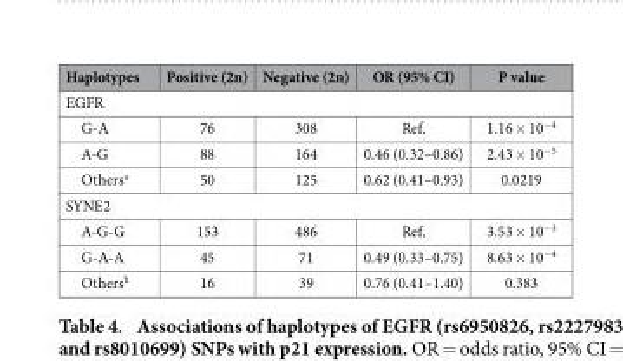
<table><thead><tr><td>Haplotypes</td><td>Positive (2n)</td><td>Negative (2n)</td><td>OR (95% CI)</td><td>P value</td></tr></thead><tbody><tr><td colspan="5">EGFR</td></tr><tr><td>G-A</td><td>76</td><td>308</td><td>Ref.</td><td>1.16 × 10<sup>−4</sup></td></tr><tr><td>A-G</td><td>88</td><td>164</td><td>0.46 (0.32–0.86)</td><td>2.43 × 10<sup>−5</sup></td></tr><tr><td>Others<sup>a</sup></td><td>50</td><td>125</td><td>0.62 (0.41–0.93)</td><td>0.0219</td></tr><tr><td colspan="5">SYNE2</td></tr><tr><td>A-G-G</td><td>153</td><td>486</td><td>Ref.</td><td>3.53 × 10<sup>−3</sup></td></tr><tr><td>G-A-A</td><td>45</td><td>71</td><td>0.49 (0.33–0.75)</td><td>8.63 × 10<sup>−4</sup></td></tr><tr><td>Others<sup>b</sup></td><td>16</td><td>39</td><td>0.76 (0.41–1.40)</td><td>0.383</td></tr></tbody></table>